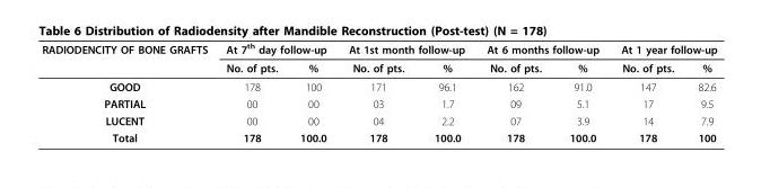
<table><thead><tr><td rowspan="2">RADIODENCITY OF BONE GRAFTS</td><td colspan="2">At 7<sup>th</sup> day follow-up</td><td colspan="2">At 1st month follow-up</td><td colspan="2">At 6 months follow-up</td><td colspan="2">At 1 year follow-up</td></tr><tr><td>No. of pts.</td><td>%</td><td>No. of pts.</td><td>%</td><td>No. of pts.</td><td>%</td><td>No. of pts.</td><td>%</td></tr></thead><tbody><tr><td>GOOD</td><td>178</td><td>100</td><td>171</td><td>96.1</td><td>162</td><td>91.0</td><td>147</td><td>82.6</td></tr><tr><td>PARTIAL</td><td>00</td><td>00</td><td>03</td><td>1.7</td><td>09</td><td>5.1</td><td>17</td><td>9.5</td></tr><tr><td>LUCENT</td><td>00</td><td>00</td><td>04</td><td>2.2</td><td>07</td><td>3.9</td><td>14</td><td>7.9</td></tr><tr><td>Total</td><td>178</td><td>100.0</td><td>178</td><td>100.0</td><td>178</td><td>100.0</td><td>178</td><td>100</td></tr></tbody></table>